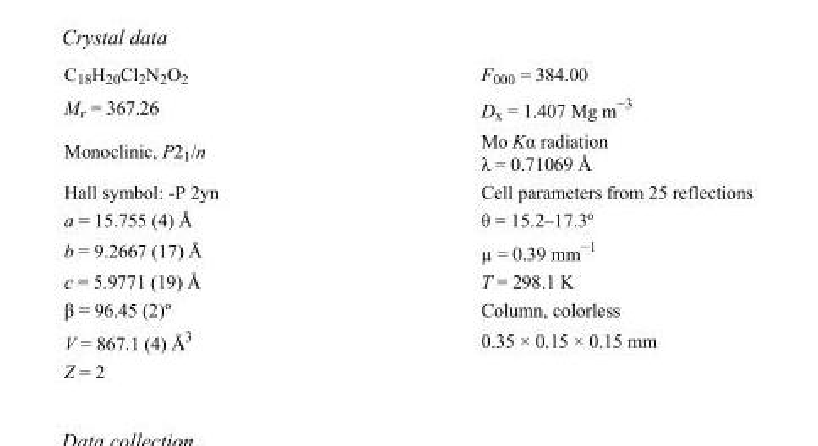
<table><tbody><tr><td>C<sub>18</sub>H<sub>20</sub>Cl<sub>2</sub>N<sub>2</sub>O<sub>2</sub></td><td>F<sub>000</sub> = 384.00</td></tr><tr><td>M<sub>r</sub> = 367.26</td><td>D<sub>x</sub> = 1.407 Mg m<sup>−3</sup></td></tr><tr><td>Monoclinic, P2<sub>1</sub>/n</td><td>Mo Kα radiation λ = 0.71069 Å</td></tr><tr><td>Hall symbol: -P 2yn</td><td>Cell parameters from 25 reflections</td></tr><tr><td>a = 15.755 (4) Å</td><td>θ = 15.2–17.3º</td></tr><tr><td>b = 9.2667 (17) Å</td><td>µ = 0.39 mm<sup>−1</sup></td></tr><tr><td>c = 5.9771 (19) Å</td><td>T = 298.1 K</td></tr><tr><td>β = 96.45 (2)º</td><td>Column, colorless</td></tr><tr><td>V = 867.1 (4) Å<sup>3</sup></td><td>0.35 × 0.15 × 0.15 mm</td></tr><tr><td>Z = 2</td><td></td></tr></tbody></table>